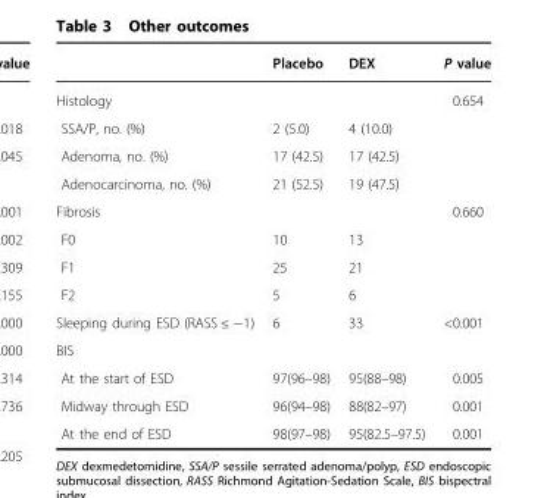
<table><thead><tr><td></td><td>Placebo</td><td>DEX</td><td>P value</td></tr></thead><tbody><tr><td>Histology</td><td></td><td></td><td>0.654</td></tr><tr><td>SSA/P, no. (%)</td><td>2 (5.0)</td><td>4 (10.0)</td><td></td></tr><tr><td>Adenoma, no. (%)</td><td>17 (42.5)</td><td>17 (42.5)</td><td></td></tr><tr><td>Adenocarcinoma, no. (%)</td><td>21 (52.5)</td><td>19 (47.5)</td><td></td></tr><tr><td>Fibrosis</td><td></td><td></td><td>0.660</td></tr><tr><td>F0</td><td>10</td><td>13</td><td></td></tr><tr><td>F1</td><td>25</td><td>21</td><td></td></tr><tr><td>F2</td><td>5</td><td>6</td><td></td></tr><tr><td>Sleeping during ESD (RASS ≤ −1)</td><td>6</td><td>33</td><td>&lt;0.001</td></tr><tr><td colspan="4">BIS</td></tr><tr><td>At the start of ESD</td><td>97(96–98)</td><td>95(88–98)</td><td>0.005</td></tr><tr><td>Midway through ESD</td><td>96(94–98)</td><td>88(82–97)</td><td>0.001</td></tr><tr><td>At the end of ESD</td><td>98(97–98)</td><td>95(82.5–97.5)</td><td>0.001</td></tr></tbody></table>